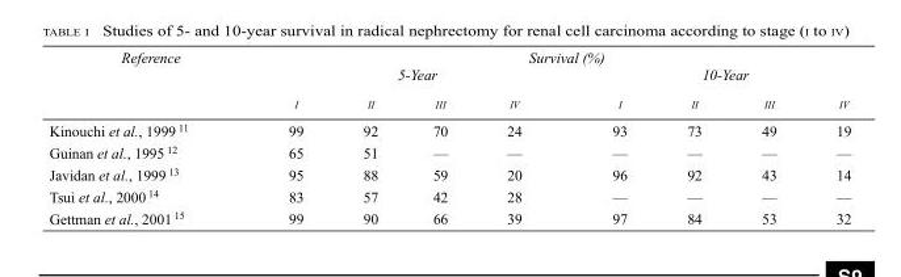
<table><thead><tr><td rowspan="3">Reference</td><td colspan="8">Survival (%)</td></tr><tr><td colspan="4">5-Year</td><td colspan="4">10-Year</td></tr><tr><td>i</td><td>ii</td><td>iii</td><td>iV</td><td>i</td><td>ii</td><td>iii</td><td>iV</td></tr></thead><tbody><tr><td>Kinouchi et al., 1999 <sup>11</sup></td><td>99</td><td>92</td><td>70</td><td>24</td><td>93</td><td>73</td><td>49</td><td>19</td></tr><tr><td>Guinan et al., 1995 <sup>12</sup></td><td>65</td><td>51</td><td>—</td><td>—</td><td>—</td><td>—</td><td>—</td><td>—</td></tr><tr><td>Javidan et al., 1999 <sup>13</sup></td><td>95</td><td>88</td><td>59</td><td>20</td><td>96</td><td>92</td><td>43</td><td>14</td></tr><tr><td>Tsui et al., 2000 <sup>14</sup></td><td>83</td><td>57</td><td>42</td><td>28</td><td>—</td><td>—</td><td>—</td><td>—</td></tr><tr><td>Gettman et al., 2001 <sup>15</sup></td><td>99</td><td>90</td><td>66</td><td>39</td><td>97</td><td>84</td><td>53</td><td>32</td></tr></tbody></table>